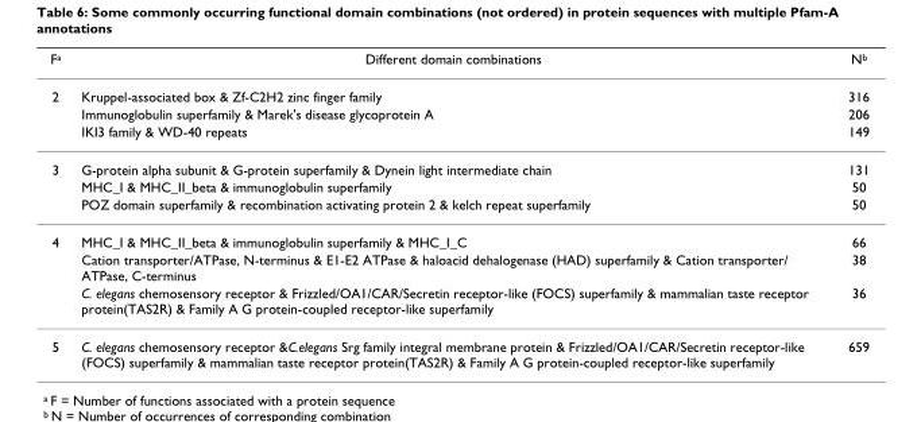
<table><thead><tr><td>F<sup>a</sup></td><td>Different domain combinations</td><td>N<sup>b</sup></td></tr></thead><tbody><tr><td rowspan="3">2</td><td>Kruppel-associated box &amp; Zf-C2H2 zinc finger family</td><td>316</td></tr><tr><td>Immunoglobulin superfamily &amp; Marek&#x27;s disease glycoprotein A</td><td>206</td></tr><tr><td>IKI3 family &amp; WD-40 repeats</td><td>149</td></tr><tr><td rowspan="3">3</td><td>G-protein alpha subunit &amp; G-protein superfamily &amp; Dynein light intermediate chain</td><td>131</td></tr><tr><td>MHC_I &amp; MHC_II_beta &amp; immunoglobulin superfamily</td><td>50</td></tr><tr><td>POZ domain superfamily &amp; recombination activating protein 2 &amp; kelch repeat superfamily</td><td>50</td></tr><tr><td rowspan="3">4</td><td>MHC_I &amp; MHC_II_beta &amp; immunoglobulin superfamily &amp; MHC_I_C</td><td>66</td></tr><tr><td>Cation transporter/ATPase, N-terminus &amp; E1-E2 ATPase &amp; haloacid dehalogenase (HAD) superfamily &amp; Cation transporter/ ATPase, C-terminus</td><td>38</td></tr><tr><td>C. elegans chemosensory receptor &amp; Frizzled/OA1/CAR/Secretin receptor-like (FOCS) superfamily &amp; mammalian taste receptor protein(TAS2R) &amp; Family A G protein-coupled receptor-like superfamily</td><td>36</td></tr><tr><td>5</td><td>C. elegans chemosensory receptor &amp;C.elegans Srg family integral membrane protein &amp; Frizzled/OA1/CAR/Secretin receptor-like (FOCS) superfamily &amp; mammalian taste receptor protein(TAS2R) &amp; Family A G protein-coupled receptor-like superfamily</td><td>659</td></tr></tbody></table>